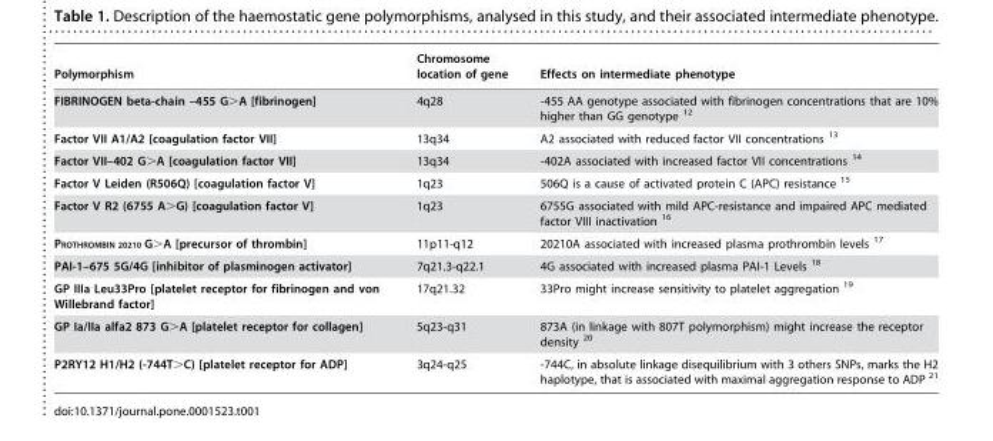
<table><thead><tr><td>Polymorphism</td><td>Chromosome location of gene</td><td>Effects on intermediate phenotype</td></tr></thead><tbody><tr><td>FIBRINOGEN beta-chain –455 G&gt;A [fibrinogen]</td><td>4q28</td><td>-455 AA genotype associated with fibrinogen concentrations that are 10% higher than GG genotype <sup>12</sup></td></tr><tr><td>Factor VII A1/A2 [coagulation factor VII]</td><td>13q34</td><td>A2 associated with reduced factor VII concentrations <sup>13</sup></td></tr><tr><td>Factor VII–402 G&gt;A [coagulation factor VII]</td><td>13q34</td><td>-402A associated with increased factor VII concentrations <sup>14</sup></td></tr><tr><td>Factor V Leiden (R506Q) [coagulation factor V]</td><td>1q23</td><td>506Q is a cause of activated protein C (APC) resistance <sup>15</sup></td></tr><tr><td>Factor V R2 (6755 A&gt;G) [coagulation factor V]</td><td>1q23</td><td>6755G associated with mild APC-resistance and impaired APC mediated factor VIII inactivation <sup>16</sup></td></tr><tr><td>PROTHROMBIN 20210 G&gt;A [precursor of thrombin]</td><td>11p11-q12</td><td>20210A associated with increased plasma prothrombin levels <sup>17</sup></td></tr><tr><td>PAI-1–675 5G/4G [inhibitor of plasminogen activator]</td><td>7q21.3-q22.1</td><td>4G associated with increased plasma PAI-1 Levels <sup>18</sup></td></tr><tr><td>GP IIIa Leu33Pro [platelet receptor for fibrinogen and von Willebrand factor]</td><td>17q21.32</td><td>33Pro might increase sensitivity to platelet aggregation <sup>19</sup></td></tr><tr><td>GP Ia/IIa alfa2 873 G&gt;A [platelet receptor for collagen]</td><td>5q23-q31</td><td>873A (in linkage with 807T polymorphism) might increase the receptor density <sup>20</sup></td></tr><tr><td>P2RY12 H1/H2 (-744T&gt;C) [platelet receptor for ADP]</td><td>3q24-q25</td><td>-744C, in absolute linkage disequilibrium with 3 others SNPs, marks the H2 haplotype, that is associated with maximal aggregation response to ADP <sup>21</sup></td></tr></tbody></table>